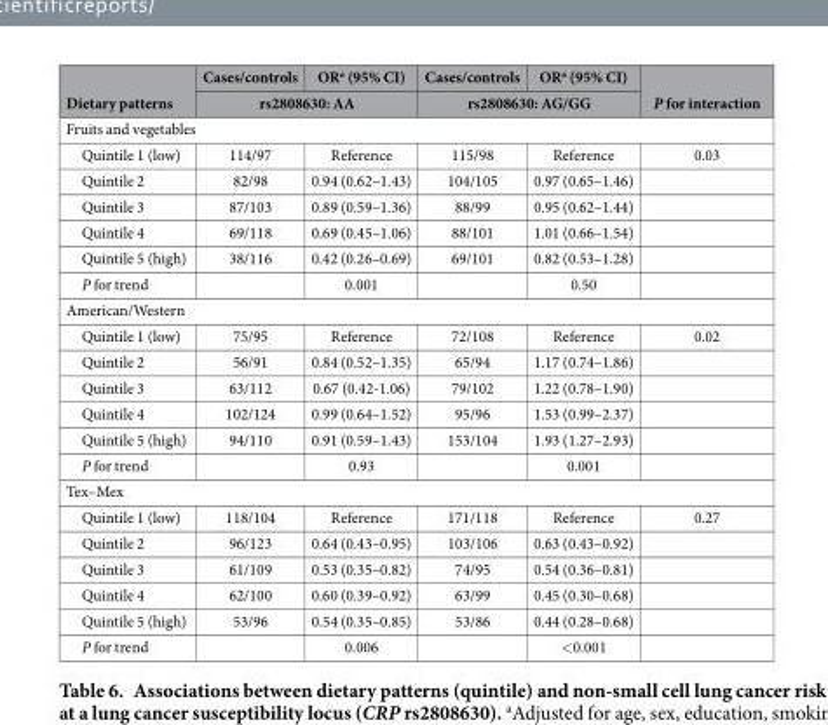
<table><thead><tr><td rowspan="2">Dietary patterns</td><td>Cases/controls</td><td>OR<sup>a</sup> (95% CI)</td><td>Cases/controls</td><td>OR<sup>a</sup> (95% CI)</td><td rowspan="2">P for interaction</td></tr><tr><td colspan="2">rs2808630: AA</td><td colspan="2">rs2808630: AG/GG</td></tr></thead><tbody><tr><td colspan="6">Fruits and vegetables</td></tr><tr><td>Quintile 1 (low)</td><td>114/97</td><td>Reference</td><td>115/98</td><td>Reference</td><td>0.03</td></tr><tr><td>Quintile 2</td><td>82/98</td><td>0.94 (0.62–1.43)</td><td>104/105</td><td>0.97 (0.65–1.46)</td><td></td></tr><tr><td>Quintile 3</td><td>87/103</td><td>0.89 (0.59–1.36)</td><td>88/99</td><td>0.95 (0.62–1.44)</td><td></td></tr><tr><td>Quintile 4</td><td>69/118</td><td>0.69 (0.45–1.06)</td><td>88/101</td><td>1.01 (0.66–1.54)</td><td></td></tr><tr><td>Quintile 5 (high)</td><td>38/116</td><td>0.42 (0.26–0.69)</td><td>69/101</td><td>0.82 (0.53–1.28)</td><td></td></tr><tr><td>P for trend</td><td></td><td>0.001</td><td></td><td>0.50</td><td></td></tr><tr><td colspan="6">American/Western</td></tr><tr><td>Quintile 1 (low)</td><td>75/95</td><td>Reference</td><td>72/108</td><td>Reference</td><td>0.02</td></tr><tr><td>Quintile 2</td><td>56/91</td><td>0.84 (0.52–1.35)</td><td>65/94</td><td>1.17 (0.74–1.86)</td><td></td></tr><tr><td>Quintile 3</td><td>63/112</td><td>0.67 (0.42-1.06)</td><td>79/102</td><td>1.22 (0.78–1.90)</td><td></td></tr><tr><td>Quintile 4</td><td>102/124</td><td>0.99 (0.64–1.52)</td><td>95/96</td><td>1.53 (0.99–2.37)</td><td></td></tr><tr><td>Quintile 5 (high)</td><td>94/110</td><td>0.91 (0.59–1.43)</td><td>153/104</td><td>1.93 (1.27–2.93)</td><td></td></tr><tr><td>P for trend</td><td></td><td>0.93</td><td></td><td>0.001</td><td></td></tr><tr><td colspan="6">Tex–Mex</td></tr><tr><td>Quintile 1 (low)</td><td>118/104</td><td>Reference</td><td>171/118</td><td>Reference</td><td>0.27</td></tr><tr><td>Quintile 2</td><td>96/123</td><td>0.64 (0.43–0.95)</td><td>103/106</td><td>0.63 (0.43–0.92)</td><td></td></tr><tr><td>Quintile 3</td><td>61/109</td><td>0.53 (0.35–0.82)</td><td>74/95</td><td>0.54 (0.36–0.81)</td><td></td></tr><tr><td>Quintile 4</td><td>62/100</td><td>0.60 (0.39–0.92)</td><td>63/99</td><td>0.45 (0.30–0.68)</td><td></td></tr><tr><td>Quintile 5 (high)</td><td>53/96</td><td>0.54 (0.35–0.85)</td><td>53/86</td><td>0.44 (0.28–0.68)</td><td></td></tr><tr><td>P for trend</td><td></td><td>0.006</td><td></td><td>&lt; 0.001</td><td></td></tr></tbody></table>